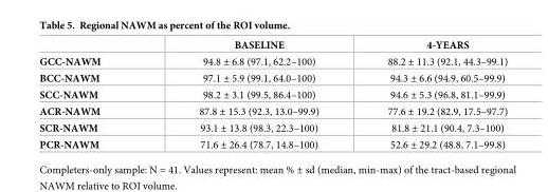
<table><thead><tr><td></td><td>BASELINE</td><td>4-YEARS</td></tr></thead><tbody><tr><td>GCC-NAWM</td><td>94.8 ± 6.8 (97.1, 62.2–100)</td><td>88.2 ± 11.3 (92.1, 44.3–99.1)</td></tr><tr><td>BCC-NAWM</td><td>97.1 ± 5.9 (99.1, 64.0–100)</td><td>94.3 ± 6.6 (94.9, 60.5–99.9)</td></tr><tr><td>SCC-NAWM</td><td>98.2 ± 3.1 (99.5, 86.4–100)</td><td>94.6 ± 5.3 (96.8, 81.1–99.9)</td></tr><tr><td>ACR-NAWM</td><td>87.8 ± 15.3 (92.3, 13.0–99.9)</td><td>77.6 ± 19.2 (82.9, 17.5–97.7)</td></tr><tr><td>SCR-NAWM</td><td>93.1 ± 13.8 (98.3, 22.3–100)</td><td>81.8 ± 21.1 (90.4, 7.3–100)</td></tr><tr><td>PCR-NAWM</td><td>71.6 ± 26.4 (78.7, 14.8–100)</td><td>52.6 ± 29.2 (48.8, 7.1–99.8)</td></tr></tbody></table>